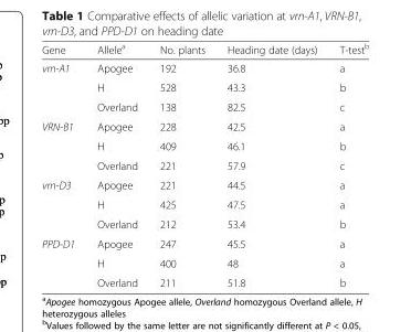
<table><thead><tr><td>Gene</td><td>Allele<sup>a</sup></td><td>No. plants</td><td>Heading date (days)</td><td>T-test<sup>b</sup></td></tr></thead><tbody><tr><td rowspan="3">vrn-A1</td><td>Apogee</td><td>192</td><td>36.8</td><td>a</td></tr><tr><td>H</td><td>528</td><td>43.3</td><td>b</td></tr><tr><td>Overland</td><td>138</td><td>82.5</td><td>c</td></tr><tr><td rowspan="3">VRN-B1</td><td>Apogee</td><td>228</td><td>42.5</td><td>a</td></tr><tr><td>H</td><td>409</td><td>46.1</td><td>b</td></tr><tr><td>Overland</td><td>221</td><td>57.9</td><td>c</td></tr><tr><td rowspan="3">vrn-D3</td><td>Apogee</td><td>221</td><td>44.5</td><td>a</td></tr><tr><td>H</td><td>425</td><td>47.5</td><td>a</td></tr><tr><td>Overland</td><td>212</td><td>53.4</td><td>b</td></tr><tr><td rowspan="3">PPD-D1</td><td>Apogee</td><td>247</td><td>45.5</td><td>a</td></tr><tr><td>H</td><td>400</td><td>48</td><td>a</td></tr><tr><td>Overland</td><td>211</td><td>51.8</td><td>b</td></tr></tbody></table>